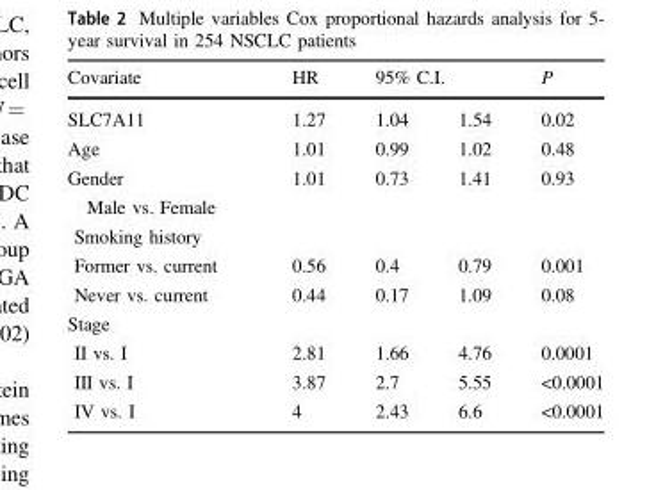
<table><thead><tr><td rowspan="2">Covariate SLC7A11</td><td rowspan="2">HR 1.27</td><td colspan="2">95% C.I.</td><td rowspan="2">P 0.02</td></tr><tr><td>1.04</td><td>1.54</td></tr></thead><tbody><tr><td>Age</td><td>1.01</td><td>0.99</td><td>1.02</td><td>0.48</td></tr><tr><td>Gender</td><td>1.01</td><td>0.73</td><td>1.41</td><td>0.93</td></tr><tr><td colspan="5">Male vs. Female</td></tr><tr><td colspan="5">Smoking history</td></tr><tr><td>Former vs. current</td><td>0.56</td><td>0.4</td><td>0.79</td><td>0.001</td></tr><tr><td>Never vs. current</td><td>0.44</td><td>0.17</td><td>1.09</td><td>0.08</td></tr><tr><td colspan="5">Stage</td></tr><tr><td>II vs. I</td><td>2.81</td><td>1.66</td><td>4.76</td><td>0.0001</td></tr><tr><td>III vs. I</td><td>3.87</td><td>2.7</td><td>5.55</td><td>&lt;0.0001</td></tr><tr><td>IV vs. I</td><td>4</td><td>2.43</td><td>6.6</td><td>&lt;0.0001</td></tr></tbody></table>